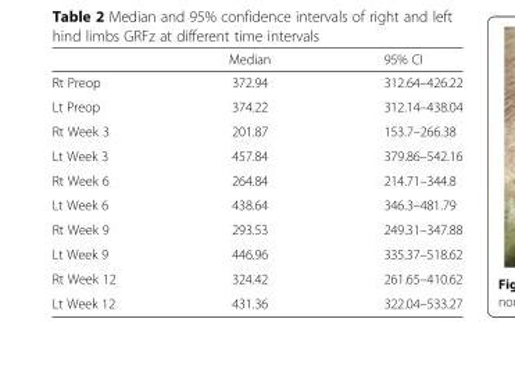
<table><thead><tr><td></td><td>Median</td><td>95% CI</td></tr></thead><tbody><tr><td>Rt Preop</td><td>372.94</td><td>312.64–426.22</td></tr><tr><td>Lt Preop</td><td>374.22</td><td>312.14–438.04</td></tr><tr><td>Rt Week 3</td><td>201.87</td><td>153.7–266.38</td></tr><tr><td>Lt Week 3</td><td>457.84</td><td>379.86–542.16</td></tr><tr><td>Rt Week 6</td><td>264.84</td><td>214.71–344.8</td></tr><tr><td>Lt Week 6</td><td>438.64</td><td>346.3–481.79</td></tr><tr><td>Rt Week 9</td><td>293.53</td><td>249.31–347.88</td></tr><tr><td>Lt Week 9</td><td>446.96</td><td>335.37–518.62</td></tr><tr><td>Rt Week 12</td><td>324.42</td><td>261.65–410.62</td></tr><tr><td>Lt Week 12</td><td>431.36</td><td>322.04–533.27</td></tr></tbody></table>